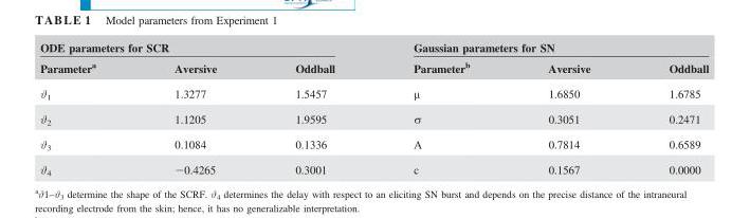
<table><thead><tr><td colspan="3">ODE parameters for SCR</td><td colspan="3">Gaussian parameters for SN</td></tr><tr><td>Parameter<sup>a</sup></td><td>Aversive</td><td>Oddball</td><td>Parameter<sup>b</sup></td><td>Aversive</td><td>Oddball</td></tr></thead><tbody><tr><td>#1</td><td>1.3277</td><td>1.5457</td><td>µ</td><td>1.6850</td><td>1.6785</td></tr><tr><td>#2</td><td>1.1205</td><td>1.9595</td><td>σ</td><td>0.3051</td><td>0.2471</td></tr><tr><td>#3</td><td>0.1084</td><td>0.1336</td><td>A</td><td>0.7814</td><td>0.6589</td></tr><tr><td>#4</td><td>−0.4265</td><td>0.3001</td><td>c</td><td>0.1567</td><td>0.0000</td></tr></tbody></table>